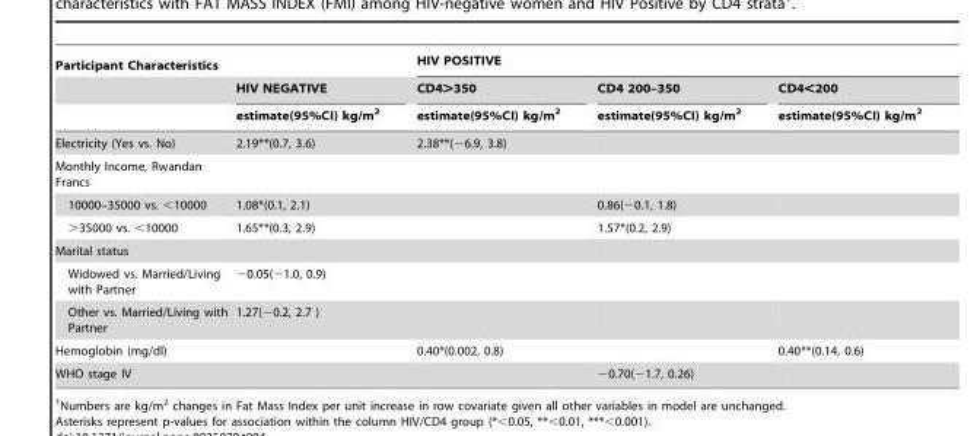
<table><thead><tr><td rowspan="3">Participant Characteristics</td><td rowspan="3">HIV NEGATIVE estimate(95%CI) kg/m<sup>2</sup></td><td colspan="3">HIV POSITIVE</td></tr><tr><td rowspan="2">CD4&gt;350 estimate(95%CI) kg/m<sup>2</sup></td><td rowspan="2">CD4 200–350 estimate(95%CI) kg/m<sup>2</sup></td><td rowspan="2">CD4&lt;200 estimate(95%CI) kg/m<sup>2</sup></td></tr><tr></tr></thead><tbody><tr><td>Electricity (Yes vs. No)</td><td>2.19**(0.7, 3.6)</td><td>2.38**(−6.9, 3.8)</td><td></td><td></td></tr><tr><td colspan="5">Monthly Income, Rwandan Francs</td></tr><tr><td>10000–35000 vs. &lt;10000</td><td>1.08*(0.1, 2.1)</td><td></td><td>0.86(−0.1, 1.8)</td><td></td></tr><tr><td>&gt;35000 vs. &lt;10000</td><td>1.65**(0.3, 2.9)</td><td></td><td>1.57*(0.2, 2.9)</td><td></td></tr><tr><td colspan="5">Marital status</td></tr><tr><td>Widowed vs. Married/Living with Partner</td><td>−0.05(−1.0, 0.9)</td><td></td><td></td><td></td></tr><tr><td>Other vs. Married/Living with Partner</td><td>1.27(−0.2, 2.7 )</td><td></td><td></td><td></td></tr><tr><td>Hemoglobin (mg/dl)</td><td></td><td>0.40*(0.002, 0.8)</td><td></td><td>0.40**(0.14, 0.6)</td></tr><tr><td>WHO stage IV</td><td></td><td></td><td>−0.70(−1.7, 0.26)</td><td></td></tr></tbody></table>